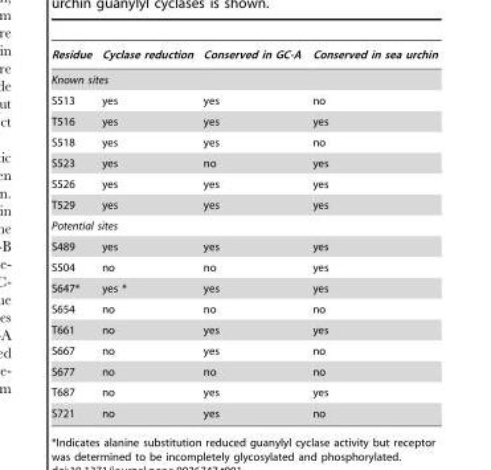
<table><thead><tr><td>Residue</td><td>Cyclase reduction</td><td>Conserved in GC-A</td><td>Conserved in sea urchin</td></tr></thead><tbody><tr><td colspan="4">Known sites</td></tr><tr><td>S513</td><td>yes</td><td>yes</td><td>no</td></tr><tr><td>T516</td><td>yes</td><td>yes</td><td>yes</td></tr><tr><td>S518</td><td>yes</td><td>yes</td><td>no</td></tr><tr><td>S523</td><td>yes</td><td>no</td><td>yes</td></tr><tr><td>S526</td><td>yes</td><td>yes</td><td>yes</td></tr><tr><td>T529</td><td>yes</td><td>yes</td><td>yes</td></tr><tr><td colspan="4">Potential sites</td></tr><tr><td>S489</td><td>yes</td><td>yes</td><td>yes</td></tr><tr><td>S504</td><td>no</td><td>no</td><td>yes</td></tr><tr><td>S647*</td><td>yes *</td><td>yes</td><td>yes</td></tr><tr><td>S654</td><td>no</td><td>no</td><td>no</td></tr><tr><td>T661</td><td>no</td><td>yes</td><td>yes</td></tr><tr><td>S667</td><td>no</td><td>yes</td><td>no</td></tr><tr><td>S677</td><td>no</td><td>no</td><td>no</td></tr><tr><td>T687</td><td>no</td><td>yes</td><td>yes</td></tr><tr><td>S721</td><td>no</td><td>yes</td><td>no</td></tr></tbody></table>